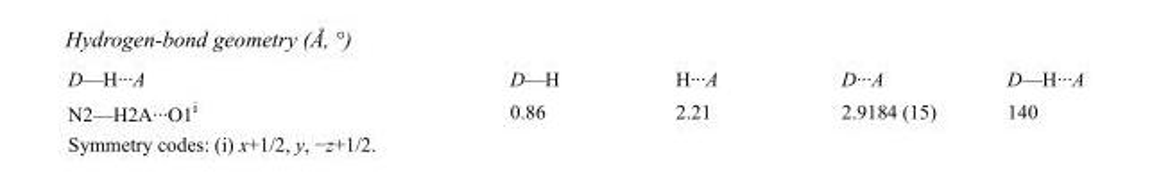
<table><tbody><tr><td>D—H···A</td><td>D—H</td><td>H···A</td><td>D···A</td><td>D—H···A</td></tr><tr><td>N2—H2A···O1<sup>i</sup></td><td>0.86</td><td>2.21</td><td>2.9184 (15)</td><td>140</td></tr></tbody></table>